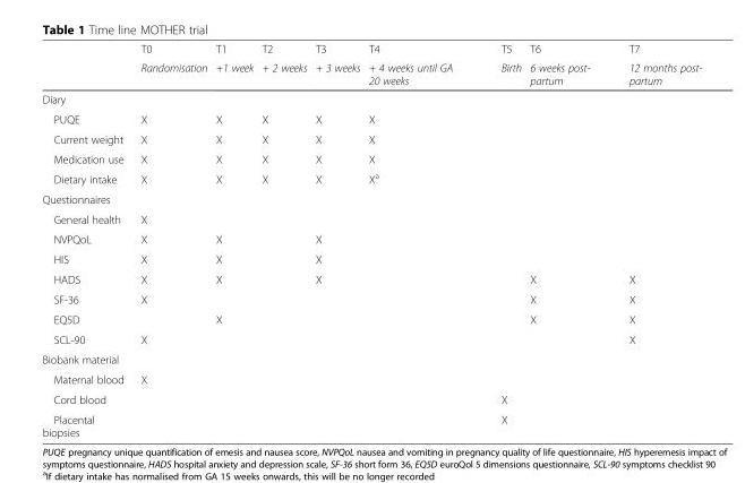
<table><thead><tr><td rowspan="2"></td><td rowspan="2">T0 Randomisation</td><td rowspan="2">T1 +1 week</td><td rowspan="2">T2 + 2 weeks</td><td rowspan="2">T3 + 3 weeks</td><td rowspan="2">T4 + 4 weeks until GA 20 weeks</td><td rowspan="2">T5 Birth</td><td rowspan="2">T6 6 weeks post- partum</td><td rowspan="2">T7 12 months post- partum</td></tr><tr></tr></thead><tbody><tr><td colspan="9">Diary</td></tr><tr><td>PUQE</td><td>X</td><td>X</td><td>X</td><td>X</td><td>X</td><td></td><td></td><td></td></tr><tr><td>Current weight</td><td>X</td><td>X</td><td>X</td><td>X</td><td>X</td><td></td><td></td><td></td></tr><tr><td>Medication use</td><td>X</td><td>X</td><td>X</td><td>X</td><td>X</td><td></td><td></td><td></td></tr><tr><td>Dietary intake</td><td>X</td><td>X</td><td>X</td><td>X</td><td>X<sup>a</sup></td><td></td><td></td><td></td></tr><tr><td colspan="9">Questionnaires</td></tr><tr><td>General health</td><td>X</td><td></td><td></td><td></td><td></td><td></td><td></td><td></td></tr><tr><td>NVPQoL</td><td>X</td><td>X</td><td></td><td>X</td><td></td><td></td><td></td><td></td></tr><tr><td>HIS</td><td>X</td><td>X</td><td></td><td>X</td><td></td><td></td><td></td><td></td></tr><tr><td>HADS</td><td>X</td><td>X</td><td></td><td>X</td><td></td><td></td><td>X</td><td>X</td></tr><tr><td>SF-36</td><td>X</td><td></td><td></td><td></td><td></td><td></td><td>X</td><td>X</td></tr><tr><td>EQ5D</td><td></td><td>X</td><td></td><td></td><td></td><td></td><td>X</td><td>X</td></tr><tr><td>SCL-90</td><td>X</td><td></td><td></td><td></td><td></td><td></td><td></td><td>X</td></tr><tr><td colspan="9">Biobank material</td></tr><tr><td>Maternal blood</td><td>X</td><td></td><td></td><td></td><td></td><td></td><td></td><td></td></tr><tr><td>Cord blood</td><td></td><td></td><td></td><td></td><td></td><td>X</td><td></td><td></td></tr><tr><td>Placental biopsies</td><td></td><td></td><td></td><td></td><td></td><td>X</td><td></td><td></td></tr></tbody></table>